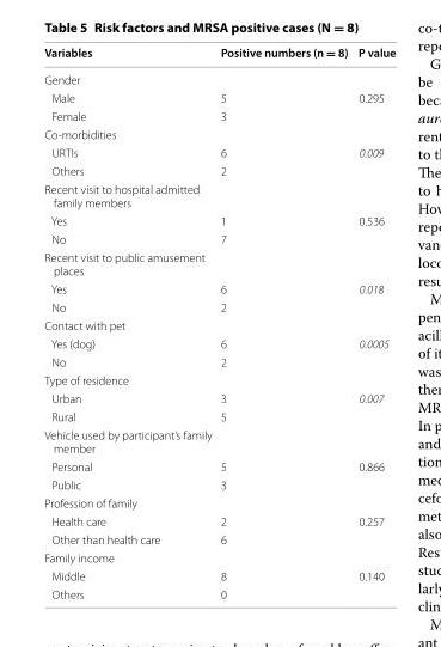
<table><thead><tr><td>Variables</td><td>Positive numbers (n = 8)</td><td>P value</td></tr></thead><tbody><tr><td colspan="3">Gender</td></tr><tr><td>Male</td><td>5</td><td>0.295</td></tr><tr><td>Female</td><td>3</td><td></td></tr><tr><td colspan="3">Co-morbidities</td></tr><tr><td>URTIs</td><td>6</td><td>0.009</td></tr><tr><td>Others</td><td>2</td><td></td></tr><tr><td colspan="3">Recent visit to hospital admitted family members</td></tr><tr><td>Yes</td><td>1</td><td>0.536</td></tr><tr><td>No</td><td>7</td><td></td></tr><tr><td colspan="3">Recent visit to public amusement places</td></tr><tr><td>Yes</td><td>6</td><td>0.018</td></tr><tr><td>No</td><td>2</td><td></td></tr><tr><td colspan="3">Contact with pet</td></tr><tr><td>Yes (dog)</td><td>6</td><td>0.0005</td></tr><tr><td>No</td><td>2</td><td></td></tr><tr><td colspan="3">Type of residence</td></tr><tr><td>Urban</td><td>3</td><td>0.007</td></tr><tr><td>Rural</td><td>5</td><td></td></tr><tr><td colspan="3">Vehicle used by participant’s family member</td></tr><tr><td>Personal</td><td>5</td><td>0.866</td></tr><tr><td>Public</td><td>3</td><td></td></tr><tr><td colspan="3">Profession of family</td></tr><tr><td>Health care</td><td>2</td><td>0.257</td></tr><tr><td>Other than health care</td><td>6</td><td></td></tr><tr><td colspan="3">Family income</td></tr><tr><td>Middle</td><td>8</td><td>0.140</td></tr><tr><td>Others</td><td>0</td><td></td></tr></tbody></table>